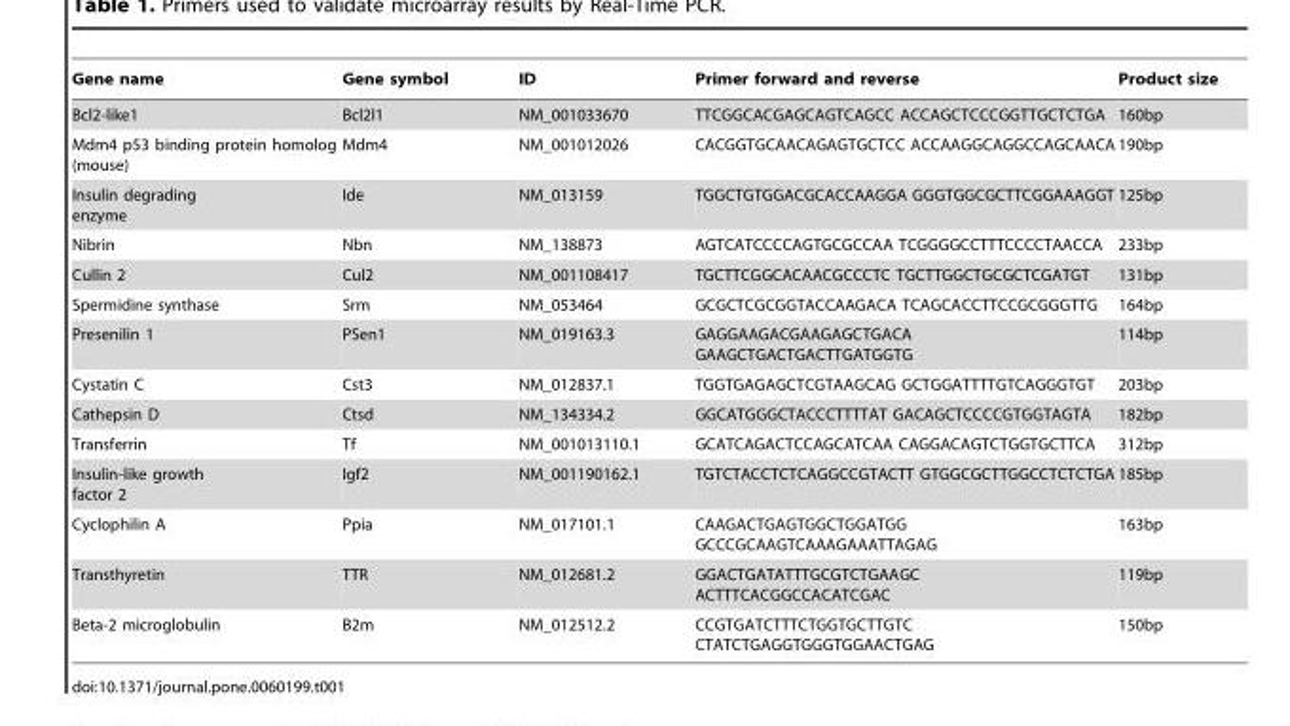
<table><thead><tr><td>Gene name</td><td>Gene symbol</td><td>ID</td><td>Primer forward and reverse</td><td>Product size</td></tr></thead><tbody><tr><td>Bcl2-like1</td><td>Bcl2l1</td><td>NM_001033670</td><td>TTCGGCACGAGCAGTCAGCC ACCAGCTCCCGGTTGCTCTGA</td><td>160bp</td></tr><tr><td>Mdm4 p53 binding protein homolog (mouse)</td><td>Mdm4</td><td>NM_001012026</td><td>CACGGTGCAACAGAGTGCTCC ACCAAGGCAGGCCAGCAACA</td><td>190bp</td></tr><tr><td>Insulin degrading enzyme</td><td>Ide</td><td>NM_013159</td><td>TGGCTGTGGACGCACCAAGGA GGGTGGCGCTTCGGAAAGGT</td><td>125bp</td></tr><tr><td>Nibrin</td><td>Nbn</td><td>NM_138873</td><td>AGTCATCCCCAGTGCGCCAA TCGGGGCCTTTCCCCTAACCA</td><td>233bp</td></tr><tr><td>Cullin 2</td><td>Cul2</td><td>NM_001108417</td><td>TGCTTCGGCACAACGCCCTC TGCTTGGCTGCGCTCGATGT</td><td>131bp</td></tr><tr><td>Spermidine synthase</td><td>Srm</td><td>NM_053464</td><td>GCGCTCGCGGTACCAAGACA TCAGCACCTTCCGCGGGTTG</td><td>164bp</td></tr><tr><td>Presenilin 1</td><td>PSen1</td><td>NM_019163.3</td><td>GAGGAAGACGAAGAGCTGACA GAAGCTGACTGACTTGATGGTG</td><td>114bp</td></tr><tr><td>Cystatin C</td><td>Cst3</td><td>NM_012837.1</td><td>TGGTGAGAGCTCGTAAGCAG GCTGGATTTTGTCAGGGTGT</td><td>203bp</td></tr><tr><td>Cathepsin D</td><td>Ctsd</td><td>NM_134334.2</td><td>GGCATGGGCTACCCTTTTAT GACAGCTCCCCGTGGTAGTA</td><td>182bp</td></tr><tr><td>Transferrin</td><td>Tf</td><td>NM_001013110.1</td><td>GCATCAGACTCCAGCATCAA CAGGACAGTCTGGTGCTTCA</td><td>312bp</td></tr><tr><td>Insulin-like growth factor 2</td><td>Igf2</td><td>NM_001190162.1</td><td>TGTCTACCTCTCAGGCCGTACTT GTGGCGCTTGGCCTCTCTGA</td><td>185bp</td></tr><tr><td>Cyclophilin A</td><td>Ppia</td><td>NM_017101.1</td><td>CAAGACTGAGTGGCTGGATGG GCCCGCAAGTCAAAGAAATTAGAG</td><td>163bp</td></tr><tr><td>Transthyretin</td><td>TTR</td><td>NM_012681.2</td><td>GGACTGATATTTGCGTCTGAAGC ACTTTCACGGCCACATCGAC</td><td>119bp</td></tr><tr><td>Beta-2 microglobulin</td><td>B2m</td><td>NM_012512.2</td><td>CCGTGATCTTTCTGGTGCTTGTC CTATCTGAGGTGGGTGGAACTGAG</td><td>150bp</td></tr></tbody></table>